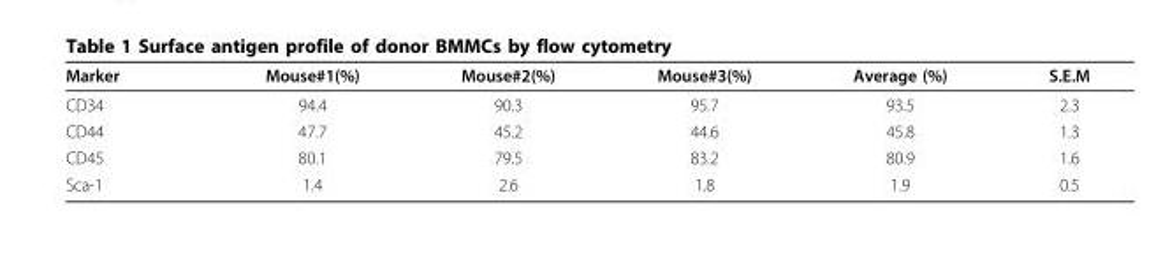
<table><thead><tr><td>Marker</td><td>Mouse#1(%)</td><td>Mouse#2(%)</td><td>Mouse#3(%)</td><td>Average (%)</td><td>S.E.M</td></tr></thead><tbody><tr><td>CD34</td><td>94.4</td><td>90.3</td><td>95.7</td><td>93.5</td><td>2.3</td></tr><tr><td>CD44</td><td>47.7</td><td>45.2</td><td>44.6</td><td>45.8</td><td>1.3</td></tr><tr><td>CD45</td><td>80.1</td><td>79.5</td><td>83.2</td><td>80.9</td><td>1.6</td></tr><tr><td>Sca-1</td><td>1.4</td><td>2.6</td><td>1.8</td><td>1.9</td><td>0.5</td></tr></tbody></table>